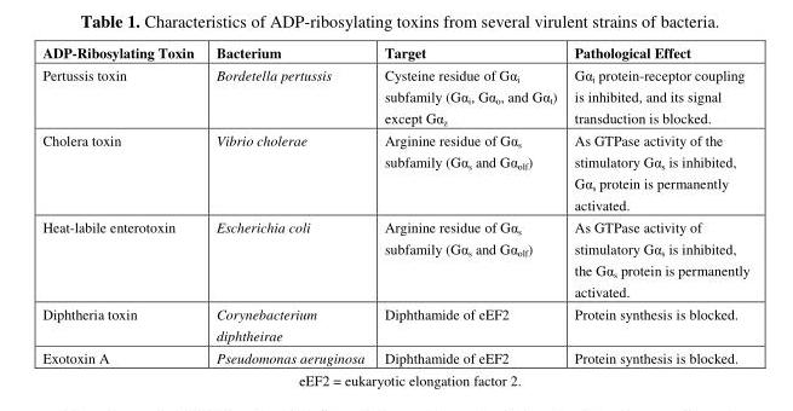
<table><thead><tr><td>ADP-Ribosylating Toxin</td><td>Bacterium</td><td>Target</td><td>Pathological Effect</td></tr></thead><tbody><tr><td>Pertussis toxin</td><td>Bordetella pertussis</td><td>Cysteine residue of Gα<sub>i</sub> subfamily (Gα<sub>i</sub>, Gα<sub>o</sub>, and Gα<sub>t</sub>) except Gα<sub>z</sub></td><td>Gα<sub>i</sub> protein-receptor coupling is inhibited, and its signal transduction is blocked.</td></tr><tr><td>Cholera toxin</td><td>Vibrio cholerae</td><td>Arginine residue of Gα<sub>s</sub> subfamily (Gα<sub>s</sub> and Gα<sub>olf</sub>)</td><td>As GTPase activity of the stimulatory Gα<sub>s</sub> is inhibited, Gα<sub>s</sub> protein is permanently activated.</td></tr><tr><td>Heat-labile enterotoxin</td><td>Escherichia coli</td><td>Arginine residue of Gα<sub>s</sub> subfamily (Gα<sub>s</sub> and Gα<sub>olf</sub>)</td><td>As GTPase activity of stimulatory Gα<sub>s</sub> is inhibited, the Gα<sub>s</sub> protein is permanently activated.</td></tr><tr><td>Diphtheria toxin</td><td>Corynebacterium diphtheirae</td><td>Diphthamide of eEF2</td><td>Protein synthesis is blocked.</td></tr><tr><td>Exotoxin A</td><td>Pseudomonas aeruginosa</td><td>Diphthamide of eEF2</td><td>Protein synthesis is blocked.</td></tr></tbody></table>